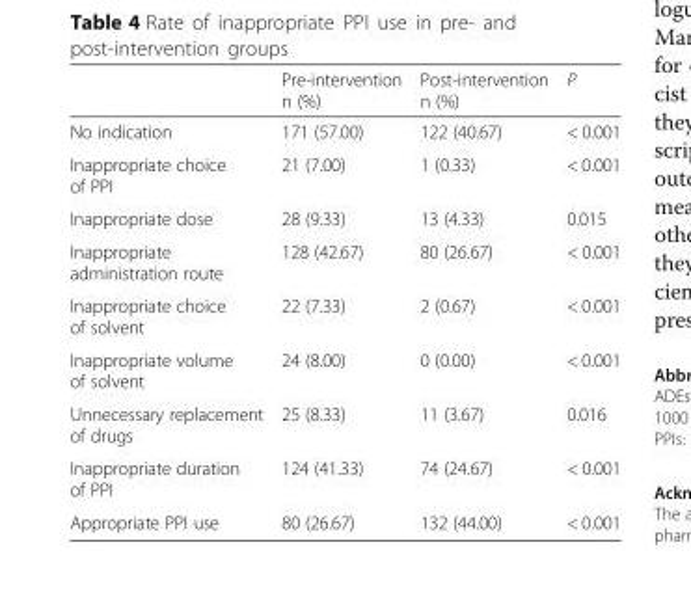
<table><thead><tr><td></td><td>Pre-intervention n (%)</td><td>Post-intervention n (%)</td><td>P</td></tr></thead><tbody><tr><td>No indication</td><td>171 (57.00)</td><td>122 (40.67)</td><td>&lt; 0.001</td></tr><tr><td>Inappropriate choice of PPI</td><td>21 (7.00)</td><td>1 (0.33)</td><td>&lt; 0.001</td></tr><tr><td>Inappropriate dose</td><td>28 (9.33)</td><td>13 (4.33)</td><td>0.015</td></tr><tr><td>Inappropriate administration route</td><td>128 (42.67)</td><td>80 (26.67)</td><td>&lt; 0.001</td></tr><tr><td>Inappropriate choice of solvent</td><td>22 (7.33)</td><td>2 (0.67)</td><td>&lt; 0.001</td></tr><tr><td>Inappropriate volume of solvent</td><td>24 (8.00)</td><td>0 (0.00)</td><td>&lt; 0.001</td></tr><tr><td>Unnecessary replacement of drugs</td><td>25 (8.33)</td><td>11 (3.67)</td><td>0.016</td></tr><tr><td>Inappropriate duration of PPI</td><td>124 (41.33)</td><td>74 (24.67)</td><td>&lt; 0.001</td></tr><tr><td>Appropriate PPI use</td><td>80 (26.67)</td><td>132 (44.00)</td><td>&lt; 0.001</td></tr></tbody></table>